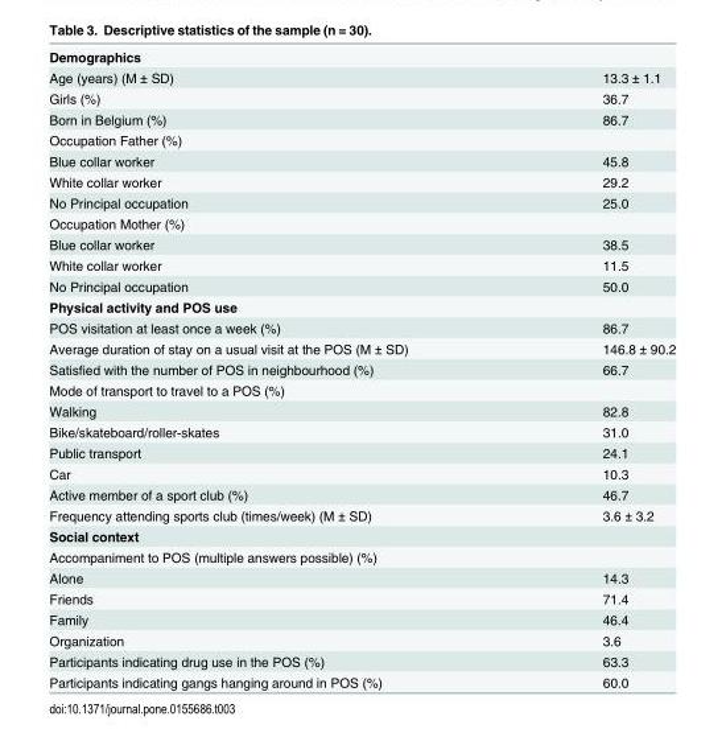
<table><tbody><tr><td colspan="2">Demographics</td></tr><tr><td>Age (years) (M ± SD)</td><td>13.3 ± 1.1</td></tr><tr><td>Girls (%)</td><td>36.7</td></tr><tr><td>Born in Belgium (%)</td><td>86.7</td></tr><tr><td colspan="2">Occupation Father (%)</td></tr><tr><td>Blue collar worker</td><td>45.8</td></tr><tr><td>White collar worker</td><td>29.2</td></tr><tr><td>No Principal occupation</td><td>25.0</td></tr><tr><td colspan="2">Occupation Mother (%)</td></tr><tr><td>Blue collar worker</td><td>38.5</td></tr><tr><td>White collar worker</td><td>11.5</td></tr><tr><td>No Principal occupation</td><td>50.0</td></tr><tr><td colspan="2">Physical activity and POS use</td></tr><tr><td>POS visitation at least once a week (%)</td><td>86.7</td></tr><tr><td>Average duration of stay on a usual visit at the POS (M ± SD)</td><td>146.8 ± 90.2</td></tr><tr><td>Satisfied with the number of POS in neighbourhood (%)</td><td>66.7</td></tr><tr><td colspan="2">Mode of transport to travel to a POS (%)</td></tr><tr><td>Walking</td><td>82.8</td></tr><tr><td>Bike/skateboard/roller-skates</td><td>31.0</td></tr><tr><td>Public transport</td><td>24.1</td></tr><tr><td>Car</td><td>10.3</td></tr><tr><td>Active member of a sport club (%)</td><td>46.7</td></tr><tr><td>Frequency attending sports club (times/week) (M ± SD)</td><td>3.6 ± 3.2</td></tr><tr><td colspan="2">Social context</td></tr><tr><td colspan="2">Accompaniment to POS (multiple answers possible) (%)</td></tr><tr><td>Alone</td><td>14.3</td></tr><tr><td>Friends</td><td>71.4</td></tr><tr><td>Family</td><td>46.4</td></tr><tr><td>Organization</td><td>3.6</td></tr><tr><td>Participants indicating drug use in the POS (%)</td><td>63.3</td></tr><tr><td>Participants indicating gangs hanging around in POS (%)</td><td>60.0</td></tr></tbody></table>